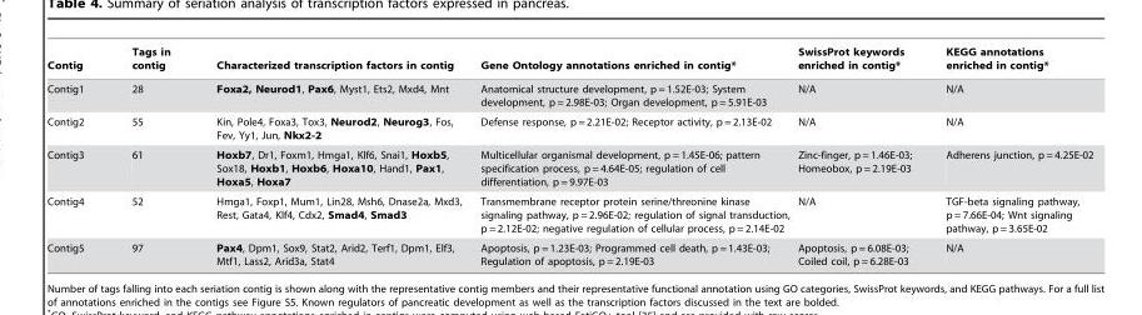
<table><thead><tr><td>Contig</td><td>Tags in contig</td><td>Characterized transcription factors in contig</td><td>Gene Ontology annotations enriched in contig*</td><td>SwissProt keywords enriched in contig*</td><td>KEGG annotations enriched in contig*</td></tr></thead><tbody><tr><td>Contig1</td><td>28</td><td>Foxa2, Neurod1, Pax6, Myst1, Ets2, Mxd4, Mnt</td><td>Anatomical structure development, p = 1.52E-03; System development, p = 2.98E-03; Organ development, p = 5.91E-03</td><td>N/A</td><td>N/A</td></tr><tr><td>Contig2</td><td>55</td><td>Kin, Pole4, Foxa3, Tox3, Neurod2, Neurog3, Fos, Fev, Yy1, Jun, Nkx2-2</td><td>Defense response, p = 2.21E-02; Receptor activity, p = 2.13E-02</td><td>N/A</td><td>N/A</td></tr><tr><td>Contig3</td><td>61</td><td>Hoxb7, Dr1, Foxm1, Hmga1, Klf6, Snai1, Hoxb5, Sox18, Hoxb1, Hoxb6, Hoxa10, Hand1, Pax1, Hoxa5, Hoxa7</td><td>Multicellular organismal development, p = 1.45E-06; pattern specification process, p = 4.64E-05; regulation of cell differentiation, p = 9.97E-03</td><td>Zinc-finger, p = 1.46E-03; Homeobox, p = 2.19E-03</td><td>Adherens junction, p = 4.25E-02</td></tr><tr><td>Contig4</td><td>52</td><td>Hmga1, Foxp1, Mum1, Lin28, Msh6, Dnase2a, Mxd3, Rest, Gata4, Klf4, Cdx2, Smad4, Smad3</td><td>Transmembrane receptor protein serine/threonine kinase signaling pathway, p = 2.96E-02; regulation of signal transduction, p = 2.12E-02; negative regulation of cellular process, p = 2.14E-02</td><td>N/A</td><td>TGF-beta signaling pathway, p = 7.66E-04; Wnt signaling pathway, p = 3.65E-02</td></tr><tr><td>Contig5</td><td>97</td><td>Pax4, Dpm1, Sox9, Stat2, Arid2, Terf1, Dpm1, Elf3, Mtf1, Lass2, Arid3a, Stat4</td><td>Apoptosis, p = 1.23E-03; Programmed cell death, p = 1.43E-03; Regulation of apoptosis, p = 2.19E-03</td><td>Apoptosis, p = 6.08E-03; Coiled coil, p = 6.28E-03</td><td>N/A</td></tr></tbody></table>